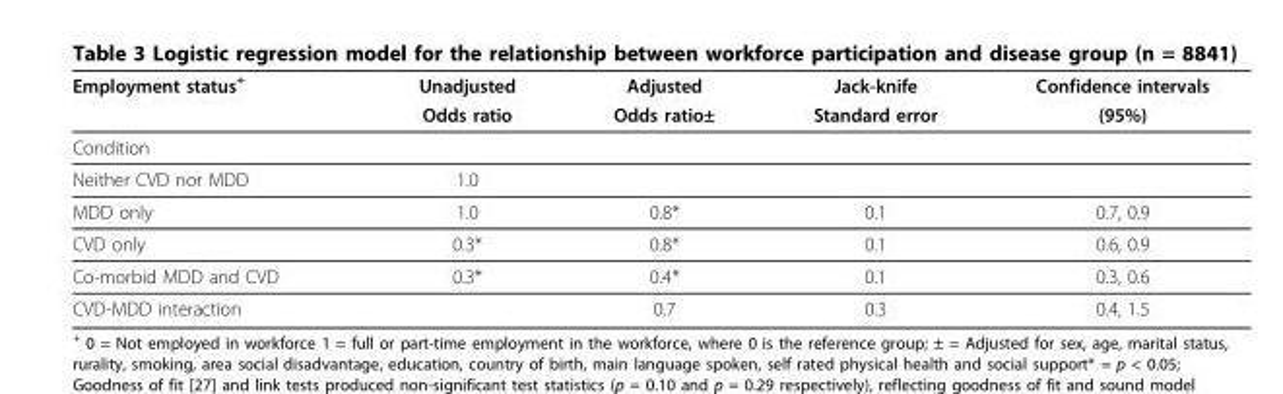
<table><thead><tr><td rowspan="2">Employment status+</td><td rowspan="2">Unadjusted Odds ratio</td><td rowspan="2">Adjusted Odds ratio±</td><td rowspan="2">Jack-knife Standard error</td><td rowspan="2">Confidence intervals (95%)</td></tr><tr></tr></thead><tbody><tr><td colspan="5">Condition</td></tr><tr><td>Neither CVD nor MDD</td><td>1.0</td><td></td><td></td><td></td></tr><tr><td>MDD only</td><td>1.0</td><td>0.8*</td><td>0.1</td><td>0.7, 0.9</td></tr><tr><td>CVD only</td><td>0.3*</td><td>0.8*</td><td>0.1</td><td>0.6, 0.9</td></tr><tr><td>Co-morbid MDD and CVD</td><td>0.3*</td><td>0.4*</td><td>0.1</td><td>0.3, 0.6</td></tr><tr><td>CVD-MDD interaction</td><td></td><td>0.7</td><td>0.3</td><td>0.4, 1.5</td></tr></tbody></table>